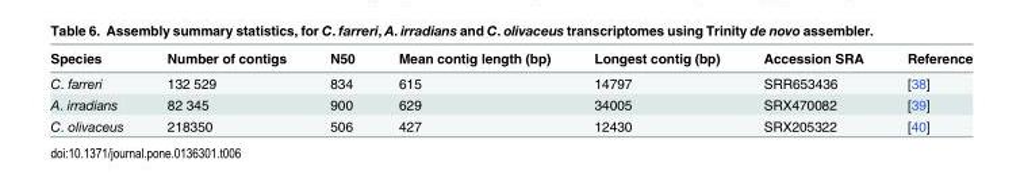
<table><thead><tr><td>Species</td><td>Number of contigs</td><td>N50</td><td>Mean contig length (bp)</td><td>Longest contig (bp)</td><td>Accession SRA</td><td>Reference</td></tr></thead><tbody><tr><td>C. farreri</td><td>132 529</td><td>834</td><td>615</td><td>14797</td><td>SRR653436</td><td>[38]</td></tr><tr><td>A. irradians</td><td>82 345</td><td>900</td><td>629</td><td>34005</td><td>SRX470082</td><td>[39]</td></tr><tr><td>C. olivaceus</td><td>218350</td><td>506</td><td>427</td><td>12430</td><td>SRX205322</td><td>[40]</td></tr></tbody></table>